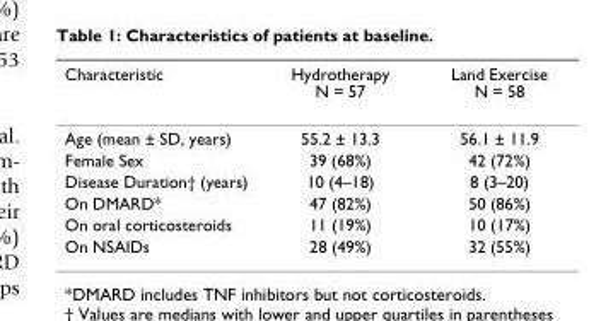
<table><thead><tr><td>Characteristic</td><td>Hydrotherapy N = 57</td><td>Land Exercise N = 58</td></tr></thead><tbody><tr><td>Age (mean ± SD, years)</td><td>55.2 ± 13.3</td><td>56.1 ± 11.9</td></tr><tr><td>Female Sex</td><td>39 (68%)</td><td>42 (72%)</td></tr><tr><td>Disease Duration† (years)</td><td>10 (4–18)</td><td>8 (3–20)</td></tr><tr><td>On DMARD*</td><td>47 (82%)</td><td>50 (86%)</td></tr><tr><td>On oral corticosteroids</td><td>11 (19%)</td><td>10 (17%)</td></tr><tr><td>On NSAIDs</td><td>28 (49%)</td><td>32 (55%)</td></tr></tbody></table>